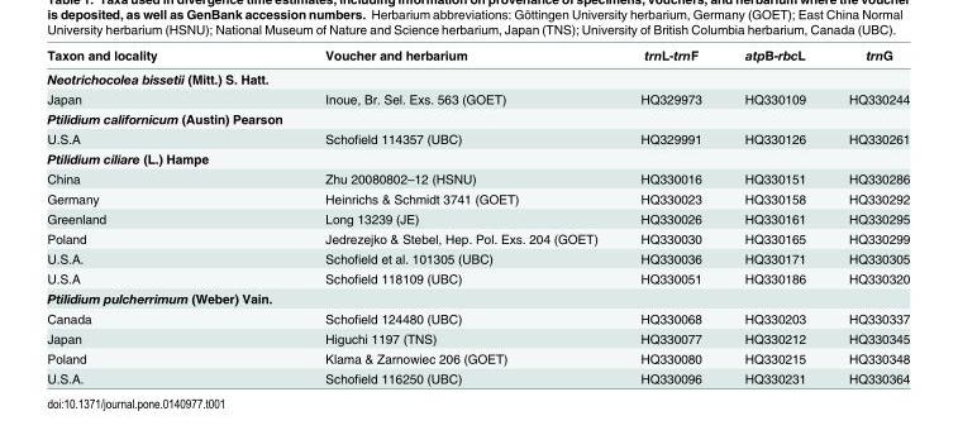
<table><thead><tr><td>Taxon and locality</td><td>Voucher and herbarium</td><td>trnL-trnF</td><td>atpB-rbcL</td><td>trnG</td></tr></thead><tbody><tr><td colspan="5">Neotrichocolea bissetii (Mitt.) S. Hatt.</td></tr><tr><td>Japan</td><td>Inoue, Br. Sel. Exs. 563 (GOET)</td><td>HQ329973</td><td>HQ330109</td><td>HQ330244</td></tr><tr><td colspan="5">Ptilidium californicum (Austin) Pearson</td></tr><tr><td>U.S.A</td><td>Schofield 114357 (UBC)</td><td>HQ329991</td><td>HQ330126</td><td>HQ330261</td></tr><tr><td colspan="5">Ptilidium ciliare (L.) Hampe</td></tr><tr><td>China</td><td>Zhu 20080802–12 (HSNU)</td><td>HQ330016</td><td>HQ330151</td><td>HQ330286</td></tr><tr><td>Germany</td><td>Heinrichs &amp; Schmidt 3741 (GOET)</td><td>HQ330023</td><td>HQ330158</td><td>HQ330292</td></tr><tr><td>Greenland</td><td>Long 13239 (JE)</td><td>HQ330026</td><td>HQ330161</td><td>HQ330295</td></tr><tr><td>Poland</td><td>Jedrezejko &amp; Stebel, Hep. Pol. Exs. 204 (GOET)</td><td>HQ330030</td><td>HQ330165</td><td>HQ330299</td></tr><tr><td>U.S.A.</td><td>Schofield et al. 101305 (UBC)</td><td>HQ330036</td><td>HQ330171</td><td>HQ330305</td></tr><tr><td>U.S.A</td><td>Schofield 118109 (UBC)</td><td>HQ330051</td><td>HQ330186</td><td>HQ330320</td></tr><tr><td colspan="5">Ptilidium pulcherrimum (Weber) Vain.</td></tr><tr><td>Canada</td><td>Schofield 124480 (UBC)</td><td>HQ330068</td><td>HQ330203</td><td>HQ330337</td></tr><tr><td>Japan</td><td>Higuchi 1197 (TNS)</td><td>HQ330077</td><td>HQ330212</td><td>HQ330345</td></tr><tr><td>Poland</td><td>Klama &amp; Zarnowiec 206 (GOET)</td><td>HQ330080</td><td>HQ330215</td><td>HQ330348</td></tr><tr><td>U.S.A.</td><td>Schofield 116250 (UBC)</td><td>HQ330096</td><td>HQ330231</td><td>HQ330364</td></tr></tbody></table>